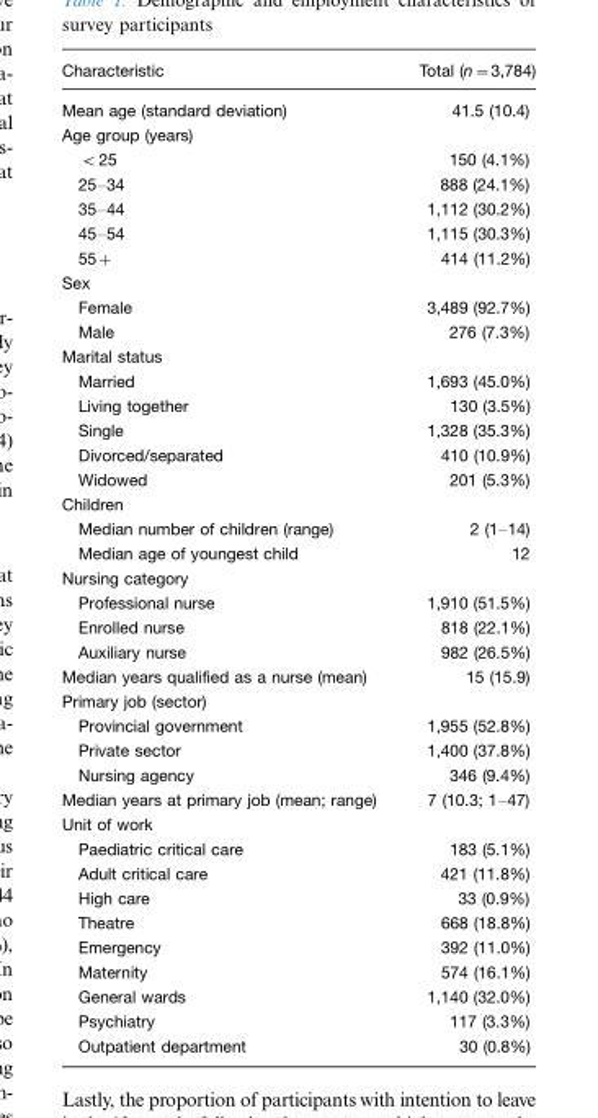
<table><thead><tr><td>Characteristic</td><td>Total (n=3,784)</td></tr></thead><tbody><tr><td>Mean age (standard deviation)</td><td>41.5 (10.4)</td></tr><tr><td colspan="2">Age group (years)</td></tr><tr><td>&lt;25</td><td>150 (4.1%)</td></tr><tr><td>25–34</td><td>888 (24.1%)</td></tr><tr><td>35–44</td><td>1,112 (30.2%)</td></tr><tr><td>45–54</td><td>1,115 (30.3%)</td></tr><tr><td>55+</td><td>414 (11.2%)</td></tr><tr><td colspan="2">Sex</td></tr><tr><td>Female</td><td>3,489 (92.7%)</td></tr><tr><td>Male</td><td>276 (7.3%)</td></tr><tr><td colspan="2">Marital status</td></tr><tr><td>Married</td><td>1,693 (45.0%)</td></tr><tr><td>Living together</td><td>130 (3.5%)</td></tr><tr><td>Single</td><td>1,328 (35.3%)</td></tr><tr><td>Divorced/separated</td><td>410 (10.9%)</td></tr><tr><td>Widowed</td><td>201 (5.3%)</td></tr><tr><td colspan="2">Children</td></tr><tr><td>Median number of children (range)</td><td>2 (1–14)</td></tr><tr><td>Median age of youngest child</td><td>12</td></tr><tr><td colspan="2">Nursing category</td></tr><tr><td>Professional nurse</td><td>1,910 (51.5%)</td></tr><tr><td>Enrolled nurse</td><td>818 (22.1%)</td></tr><tr><td>Auxiliary nurse</td><td>982 (26.5%)</td></tr><tr><td>Median years qualified as a nurse (mean)</td><td>15 (15.9)</td></tr><tr><td colspan="2">Primary job (sector)</td></tr><tr><td>Provincial government</td><td>1,955 (52.8%)</td></tr><tr><td>Private sector</td><td>1,400 (37.8%)</td></tr><tr><td>Nursing agency</td><td>346 (9.4%)</td></tr><tr><td>Median years at primary job (mean; range)</td><td>7 (10.3; 1–47)</td></tr><tr><td colspan="2">Unit of work</td></tr><tr><td>Paediatric critical care</td><td>183 (5.1%)</td></tr><tr><td>Adult critical care</td><td>421 (11.8%)</td></tr><tr><td>High care</td><td>33 (0.9%)</td></tr><tr><td>Theatre</td><td>668 (18.8%)</td></tr><tr><td>Emergency</td><td>392 (11.0%)</td></tr><tr><td>Maternity</td><td>574 (16.1%)</td></tr><tr><td>General wards</td><td>1,140 (32.0%)</td></tr><tr><td>Psychiatry</td><td>117 (3.3%)</td></tr><tr><td>Outpatient department</td><td>30 (0.8%)</td></tr></tbody></table>